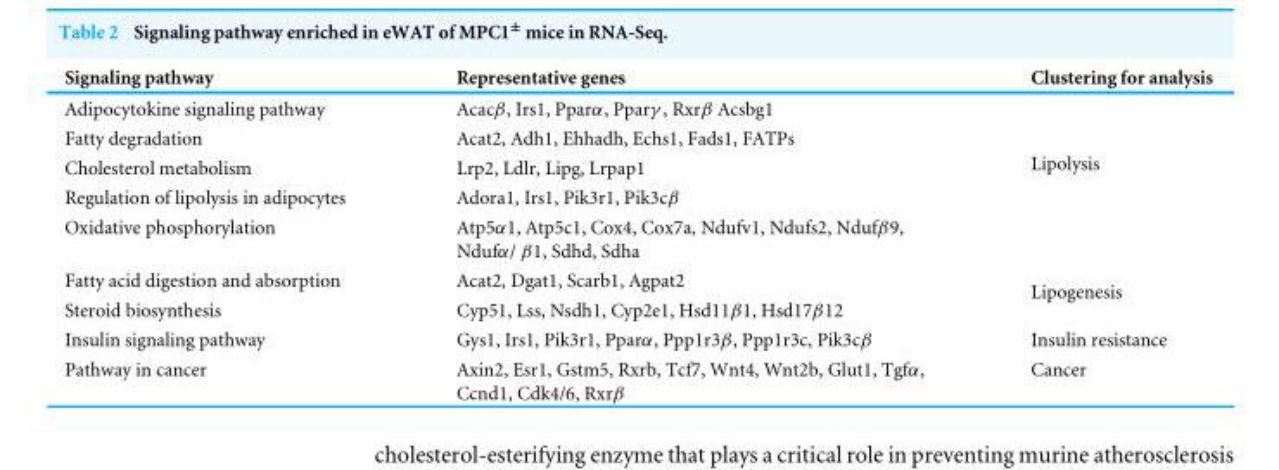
<table><thead><tr><td>Signaling pathway</td><td>Representative genes</td><td>Clustering for analysis</td></tr></thead><tbody><tr><td>Adipocytokine signaling pathway</td><td>Acacβ, Irs1, Pparα, Pparγ , Rxrβ Acsbg1</td><td rowspan="5">Lipolysis</td></tr><tr><td>Fatty degradation</td><td>Acat2, Adh1, Ehhadh, Echs1, Fads1, FATPs</td></tr><tr><td>Cholesterol metabolism</td><td>Lrp2, Ldlr, Lipg, Lrpap1</td></tr><tr><td>Regulation of lipolysis in adipocytes</td><td>Adora1, Irs1, Pik3r1, Pik3cβ</td></tr><tr><td>Oxidative phosphorylation</td><td>Atp5α1, Atp5c1, Cox4, Cox7a, Ndufv1, Ndufs2, Ndufβ9, Ndufα/ β1, Sdhd, Sdha</td></tr><tr><td>Fatty acid digestion and absorption</td><td>Acat2, Dgat1, Scarb1, Agpat2</td><td rowspan="2">Lipogenesis</td></tr><tr><td>Steroid biosynthesis</td><td>Cyp51, Lss, Nsdh1, Cyp2e1, Hsd11β1, Hsd17β12</td></tr><tr><td>Insulin signaling pathway</td><td>Gys1, Irs1, Pik3r1, Pparα, Ppp1r3β, Ppp1r3c, Pik3cβ</td><td>Insulin resistance</td></tr><tr><td>Pathway in cancer</td><td>Axin2, Esr1, Gstm5, Rxrb, Tcf7, Wnt4, Wnt2b, Glut1, Tgfα, Ccnd1, Cdk4/6, Rxrβ</td><td>Cancer</td></tr></tbody></table>